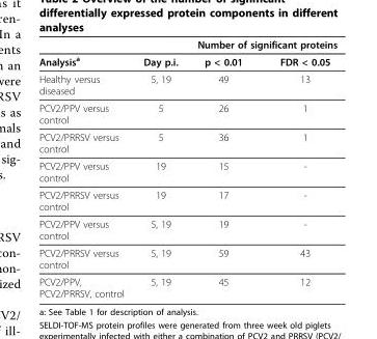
<table><thead><tr><td rowspan="2">Analysis<sup>a</sup></td><td rowspan="2">Day p.i.</td><td colspan="2">Number of significant proteins</td></tr><tr><td>p &lt; 0.01</td><td>FDR &lt; 0.05</td></tr></thead><tbody><tr><td>Healthy versus diseased</td><td>5, 19</td><td>49</td><td>13</td></tr><tr><td>PCV2/PPV versus control</td><td>5</td><td>26</td><td>1</td></tr><tr><td>PCV2/PRRSV versus control</td><td>5</td><td>36</td><td>1</td></tr><tr><td>PCV2/PPV versus control</td><td>19</td><td>15</td><td>-</td></tr><tr><td>PCV2/PRRSV versus control</td><td>19</td><td>17</td><td>-</td></tr><tr><td>PCV2/PPV versus control</td><td>5, 19</td><td>19</td><td>-</td></tr><tr><td>PCV2/PRRSV versus control</td><td>5, 19</td><td>59</td><td>43</td></tr><tr><td>PCV2/PPV, PCV2/PRRSV, control</td><td>5, 19</td><td>45</td><td>12</td></tr></tbody></table>